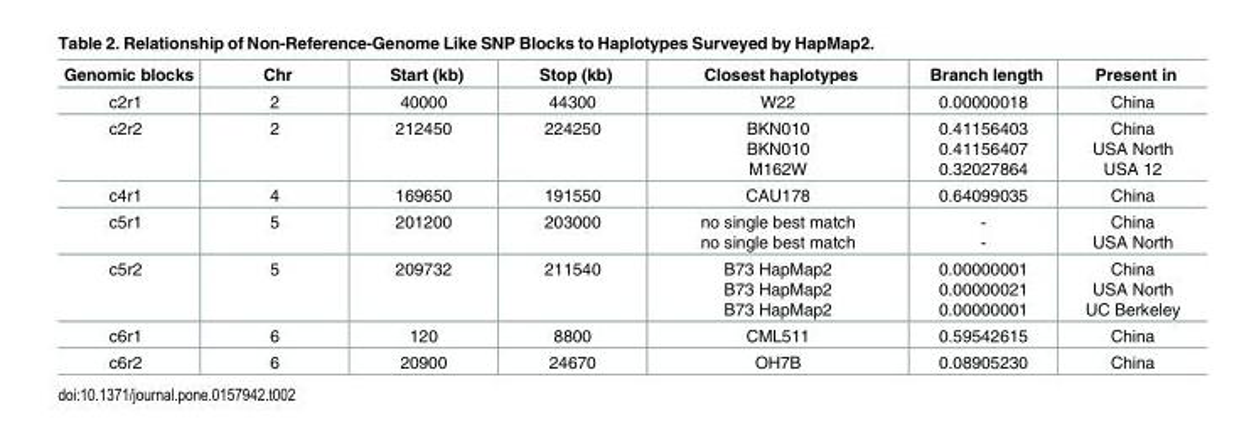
<table><thead><tr><td>Genomic blocks</td><td>Chr</td><td>Start (kb)</td><td>Stop (kb)</td><td>Closest haplotypes</td><td>Branch length</td><td>Present in</td></tr></thead><tbody><tr><td>c2r1</td><td>2</td><td>40000</td><td>44300</td><td>W22</td><td>0.00000018</td><td>China</td></tr><tr><td>c2r2</td><td>2</td><td>212450</td><td>224250</td><td>BKN010 BKN010 M162W</td><td>0.41156403 0.41156407 0.32027864</td><td>China USA North USA 12</td></tr><tr><td>c4r1</td><td>4</td><td>169650</td><td>191550</td><td>CAU178</td><td>0.64099035</td><td>China</td></tr><tr><td>c5r1</td><td>5</td><td>201200</td><td>203000</td><td>no single best match no single best match</td><td>- -</td><td>China USA North</td></tr><tr><td>c5r2</td><td>5</td><td>209732</td><td>211540</td><td>B73 HapMap2 B73 HapMap2 B73 HapMap2</td><td>0.00000001 0.00000021 0.00000001</td><td>China USA North UC Berkeley</td></tr><tr><td>c6r1</td><td>6</td><td>120</td><td>8800</td><td>CML511</td><td>0.59542615</td><td>China</td></tr><tr><td>c6r2</td><td>6</td><td>20900</td><td>24670</td><td>OH7B</td><td>0.08905230</td><td>China</td></tr></tbody></table>